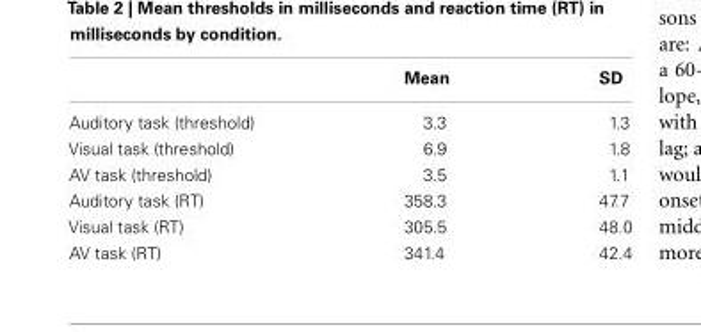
<table><thead><tr><td></td><td>Mean</td><td>SD</td></tr></thead><tbody><tr><td>Auditory task (threshold)</td><td>3.3</td><td>1.3</td></tr><tr><td>Visual task (threshold)</td><td>6.9</td><td>1.8</td></tr><tr><td>AV task (threshold)</td><td>3.5</td><td>1.1</td></tr><tr><td>Auditory task (RT)</td><td>358.3</td><td>47.7</td></tr><tr><td>Visual task (RT)</td><td>305.5</td><td>48.0</td></tr><tr><td>AV task (RT)</td><td>341.4</td><td>42.4</td></tr></tbody></table>